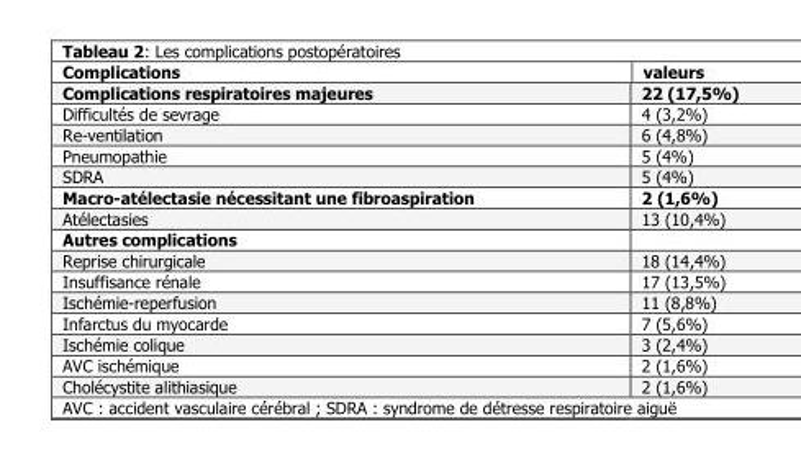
<table><thead><tr><td>Complications</td><td>valeurs</td></tr></thead><tbody><tr><td>Complications respiratoires majeures</td><td>22 (17,5%)</td></tr><tr><td>Difficultés de sevrage</td><td>4 (3,2%)</td></tr><tr><td>Re-ventilation</td><td>6 (4,8%)</td></tr><tr><td>Pneumopathie</td><td>5 (4%)</td></tr><tr><td>SDRA</td><td>5 (4%)</td></tr><tr><td>Macro-atélectasie nécessitant une fibroaspiration</td><td>2 (1,6%)</td></tr><tr><td>Atélectasies</td><td>13 (10,4%)</td></tr><tr><td colspan="2">Autres complications</td></tr><tr><td>Reprise chirurgicale</td><td>18 (14,4%)</td></tr><tr><td>Insuffisance rénale</td><td>17 (13,5%)</td></tr><tr><td>Ischémie-reperfusion</td><td>11 (8,8%)</td></tr><tr><td>Infarctus du myocarde</td><td>7 (5,6%)</td></tr><tr><td>Ischémie colique</td><td>3 (2,4%)</td></tr><tr><td>AVC ischémique</td><td>2 (1,6%)</td></tr><tr><td>Cholécystite alithiasique</td><td>2 (1,6%)</td></tr></tbody></table>